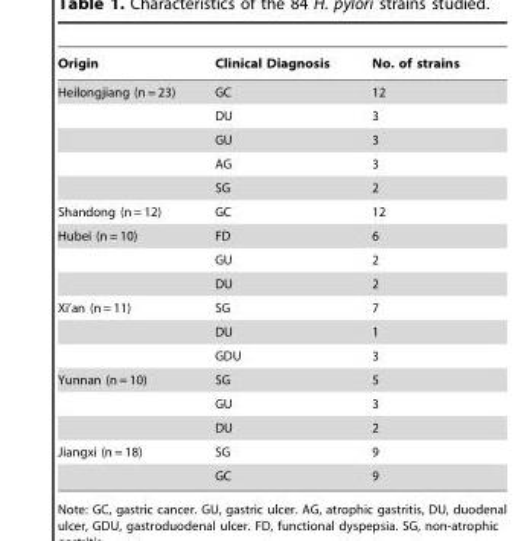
<table><thead><tr><td>Origin</td><td>Clinical Diagnosis</td><td>No. of strains</td></tr></thead><tbody><tr><td rowspan="5">Heilongjiang (n = 23)</td><td>GC</td><td>12</td></tr><tr><td>DU</td><td>3</td></tr><tr><td>GU</td><td>3</td></tr><tr><td>AG</td><td>3</td></tr><tr><td>SG</td><td>2</td></tr><tr><td>Shandong (n = 12)</td><td>GC</td><td>12</td></tr><tr><td rowspan="3">Hubei (n = 10)</td><td>FD</td><td>6</td></tr><tr><td>GU</td><td>2</td></tr><tr><td>DU</td><td>2</td></tr><tr><td rowspan="3">Xi’an (n = 11)</td><td>SG</td><td>7</td></tr><tr><td>DU</td><td>1</td></tr><tr><td>GDU</td><td>3</td></tr><tr><td rowspan="3">Yunnan (n = 10)</td><td>SG</td><td>5</td></tr><tr><td>GU</td><td>3</td></tr><tr><td>DU</td><td>2</td></tr><tr><td rowspan="2">Jiangxi (n = 18)</td><td>SG</td><td>9</td></tr><tr><td>GC</td><td>9</td></tr></tbody></table>